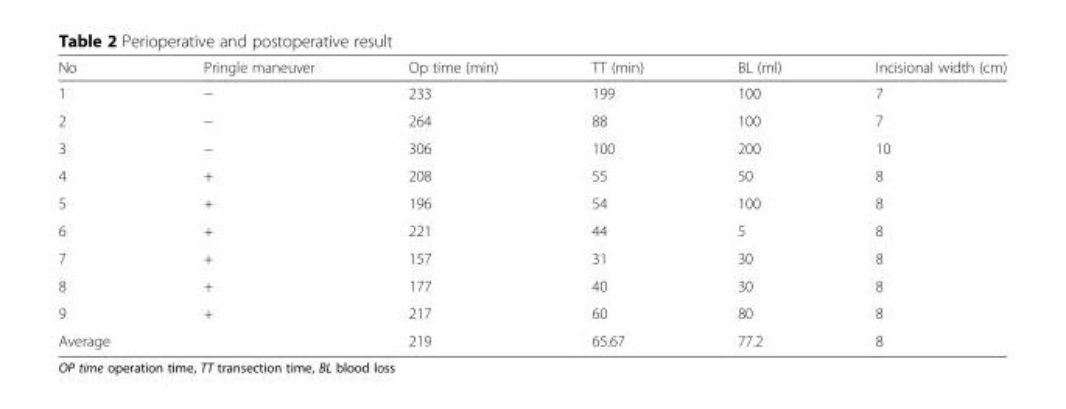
<table><thead><tr><td>No</td><td>Pringle maneuver</td><td>Op time (min)</td><td>TT (min)</td><td>BL (ml)</td><td>Incisional width (cm)</td></tr></thead><tbody><tr><td>1</td><td>−</td><td>233</td><td>199</td><td>100</td><td>7</td></tr><tr><td>2</td><td>−</td><td>264</td><td>88</td><td>100</td><td>7</td></tr><tr><td>3</td><td>−</td><td>306</td><td>100</td><td>200</td><td>10</td></tr><tr><td>4</td><td>+</td><td>208</td><td>55</td><td>50</td><td>8</td></tr><tr><td>5</td><td>+</td><td>196</td><td>54</td><td>100</td><td>8</td></tr><tr><td>6</td><td>+</td><td>221</td><td>44</td><td>5</td><td>8</td></tr><tr><td>7</td><td>+</td><td>157</td><td>31</td><td>30</td><td>8</td></tr><tr><td>8</td><td>+</td><td>177</td><td>40</td><td>30</td><td>8</td></tr><tr><td>9</td><td>+</td><td>217</td><td>60</td><td>80</td><td>8</td></tr><tr><td>Average</td><td></td><td>219</td><td>65.67</td><td>77.2</td><td>8</td></tr></tbody></table>